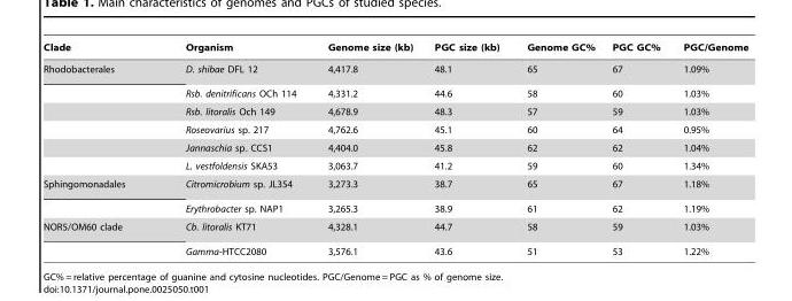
<table><thead><tr><td>Clade</td><td>Organism</td><td>Genome size (kb)</td><td>PGC size (kb)</td><td>Genome GC%</td><td>PGC GC%</td><td>PGC/Genome</td></tr></thead><tbody><tr><td rowspan="6">Rhodobacterales</td><td>D. shibae DFL 12</td><td>4,417.8</td><td>48.1</td><td>65</td><td>67</td><td>1.09%</td></tr><tr><td>Rsb. denitrificans OCh 114</td><td>4,331.2</td><td>44.6</td><td>58</td><td>60</td><td>1.03%</td></tr><tr><td>Rsb. litoralis Och 149</td><td>4,678.9</td><td>48.3</td><td>57</td><td>59</td><td>1.03%</td></tr><tr><td>Roseovarius sp. 217</td><td>4,762.6</td><td>45.1</td><td>60</td><td>64</td><td>0.95%</td></tr><tr><td>Jannaschia sp. CCS1</td><td>4,404.0</td><td>45.8</td><td>62</td><td>62</td><td>1.04%</td></tr><tr><td>L. vestfoldensis SKA53</td><td>3,063.7</td><td>41.2</td><td>59</td><td>60</td><td>1.34%</td></tr><tr><td rowspan="2">Sphingomonadales</td><td>Citromicrobium sp. JL354</td><td>3,273.3</td><td>38.7</td><td>65</td><td>67</td><td>1.18%</td></tr><tr><td>Erythrobacter sp. NAP1</td><td>3,265.3</td><td>38.9</td><td>61</td><td>62</td><td>1.19%</td></tr><tr><td rowspan="2">NOR5/OM60 clade</td><td>Cb. litoralis KT71</td><td>4,328.1</td><td>44.7</td><td>58</td><td>59</td><td>1.03%</td></tr><tr><td>Gamma-HTCC2080</td><td>3,576.1</td><td>43.6</td><td>51</td><td>53</td><td>1.22%</td></tr></tbody></table>